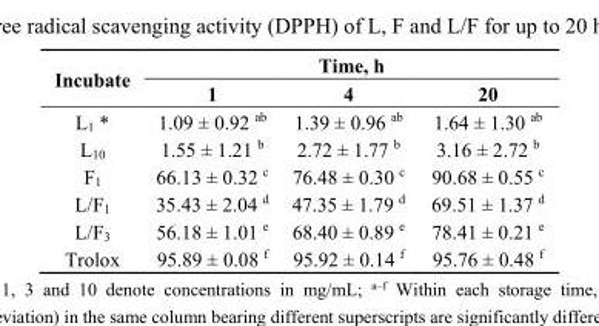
<table><thead><tr><td rowspan="2">Incubate</td><td colspan="3">Time, h</td></tr><tr><td>1</td><td>4</td><td>20</td></tr></thead><tbody><tr><td>L<sub>1</sub> *</td><td>1.09 ± 0.92 <sup>ab</sup></td><td>1.39 ± 0.96 <sup>ab</sup></td><td>1.64 ± 1.30 <sup>ab</sup></td></tr><tr><td>L<sub>10</sub></td><td>1.55 ± 1.21 <sup>b</sup></td><td>2.72 ± 1.77 <sup>b</sup></td><td>3.16 ± 2.72 <sup>b</sup></td></tr><tr><td>F<sub>1</sub></td><td>66.13 ± 0.32 <sup>c</sup></td><td>76.48 ± 0.30 <sup>c</sup></td><td>90.68 ± 0.55 <sup>c</sup></td></tr><tr><td>L/F<sub>1</sub></td><td>35.43 ± 2.04 <sup>d</sup></td><td>47.35 ± 1.79 <sup>d</sup></td><td>69.51 ± 1.37 <sup>d</sup></td></tr><tr><td>L/F<sub>3</sub></td><td>56.18 ± 1.01 <sup>e</sup></td><td>68.40 ± 0.89 <sup>e</sup></td><td>78.41 ± 0.21 <sup>e</sup></td></tr><tr><td>Trolox</td><td>95.89 ± 0.08 <sup>f</sup></td><td>95.92 ± 0.14 <sup>f</sup></td><td>95.76 ± 0.48 <sup>f</sup></td></tr></tbody></table>